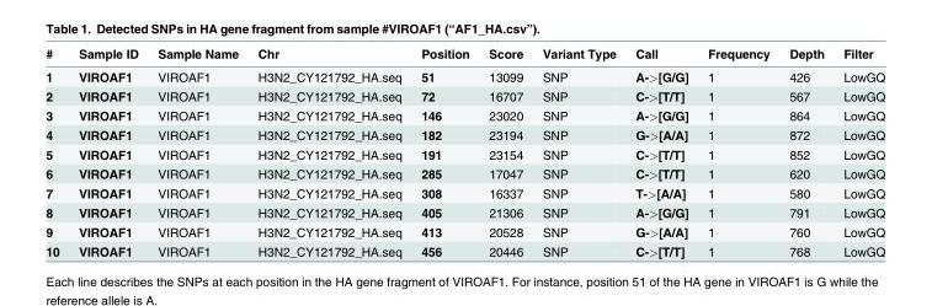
<table><thead><tr><td>#</td><td>Sample ID</td><td>Sample Name</td><td>Chr</td><td>Position</td><td>Score</td><td>Variant Type</td><td>Call</td><td>Frequency</td><td>Depth</td><td>Filter</td></tr></thead><tbody><tr><td>1</td><td>VIROAF1</td><td>VIROAF1</td><td>H3N2_CY121792_HA.seq</td><td>51</td><td>13099</td><td>SNP</td><td>A-&gt;[G/G]</td><td>1</td><td>426</td><td>LowGQ</td></tr><tr><td>2</td><td>VIROAF1</td><td>VIROAF1</td><td>H3N2_CY121792_HA.seq</td><td>72</td><td>16707</td><td>SNP</td><td>C-&gt;[T/T]</td><td>1</td><td>567</td><td>LowGQ</td></tr><tr><td>3</td><td>VIROAF1</td><td>VIROAF1</td><td>H3N2_CY121792_HA.seq</td><td>146</td><td>23020</td><td>SNP</td><td>A-&gt;[G/G]</td><td>1</td><td>864</td><td>LowGQ</td></tr><tr><td>4</td><td>VIROAF1</td><td>VIROAF1</td><td>H3N2_CY121792_HA.seq</td><td>182</td><td>23194</td><td>SNP</td><td>G-&gt;[A/A]</td><td>1</td><td>872</td><td>LowGQ</td></tr><tr><td>5</td><td>VIROAF1</td><td>VIROAF1</td><td>H3N2_CY121792_HA.seq</td><td>191</td><td>23154</td><td>SNP</td><td>C-&gt;[T/T]</td><td>1</td><td>852</td><td>LowGQ</td></tr><tr><td>6</td><td>VIROAF1</td><td>VIROAF1</td><td>H3N2_CY121792_HA.seq</td><td>285</td><td>17047</td><td>SNP</td><td>C-&gt;[T/T]</td><td>1</td><td>620</td><td>LowGQ</td></tr><tr><td>7</td><td>VIROAF1</td><td>VIROAF1</td><td>H3N2_CY121792_HA.seq</td><td>308</td><td>16337</td><td>SNP</td><td>T-&gt;[A/A]</td><td>1</td><td>580</td><td>LowGQ</td></tr><tr><td>8</td><td>VIROAF1</td><td>VIROAF1</td><td>H3N2_CY121792_HA.seq</td><td>405</td><td>21306</td><td>SNP</td><td>A-&gt;[G/G]</td><td>1</td><td>791</td><td>LowGQ</td></tr><tr><td>9</td><td>VIROAF1</td><td>VIROAF1</td><td>H3N2_CY121792_HA.seq</td><td>413</td><td>20528</td><td>SNP</td><td>G-&gt;[A/A]</td><td>1</td><td>760</td><td>LowGQ</td></tr><tr><td>10</td><td>VIROAF1</td><td>VIROAF1</td><td>H3N2_CY121792_HA.seq</td><td>456</td><td>20446</td><td>SNP</td><td>C-&gt;[T/T]</td><td>1</td><td>768</td><td>LowGQ</td></tr></tbody></table>